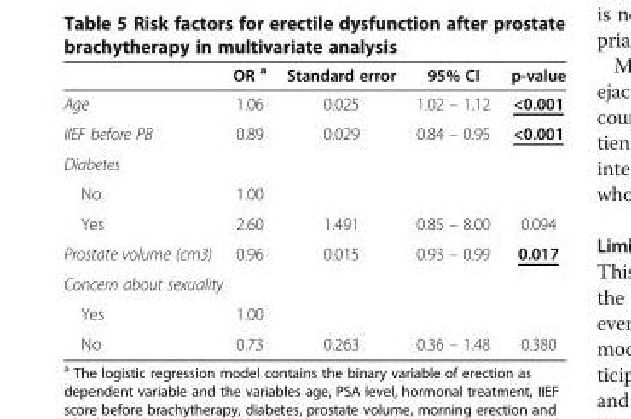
<table><thead><tr><td></td><td>OR <sup>a</sup></td><td>Standard error</td><td>95% CI</td><td>p-value</td></tr></thead><tbody><tr><td>Age</td><td>1.06</td><td>0.025</td><td>1.02 – 1.12</td><td>&lt;0.001</td></tr><tr><td>IIEF before PB</td><td>0.89</td><td>0.029</td><td>0.84 – 0.95</td><td>&lt;0.001</td></tr><tr><td colspan="5">Diabetes</td></tr><tr><td>No</td><td>1.00</td><td></td><td></td><td></td></tr><tr><td>Yes</td><td>2.60</td><td>1.491</td><td>0.85 – 8.00</td><td>0.094</td></tr><tr><td>Prostate volume (cm3)</td><td>0.96</td><td>0.015</td><td>0.93 – 0.99</td><td>0.017</td></tr><tr><td colspan="5">Concern about sexuality</td></tr><tr><td>Yes</td><td>1.00</td><td></td><td></td><td></td></tr><tr><td>No</td><td>0.73</td><td>0.263</td><td>0.36 – 1.48</td><td>0.380</td></tr></tbody></table>